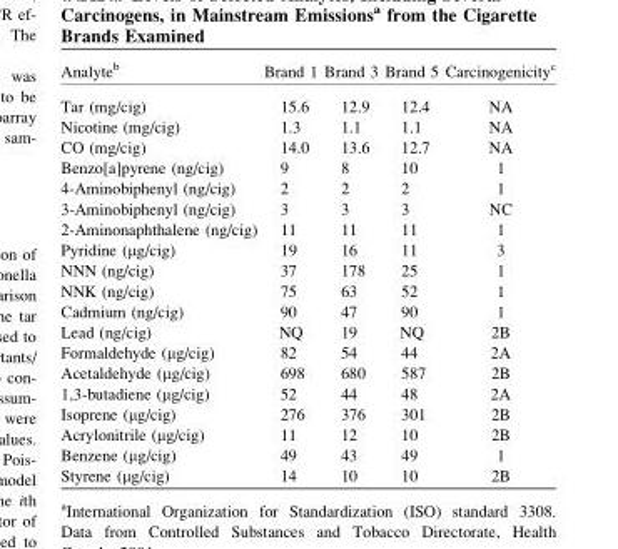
<table><thead><tr><td>Analyte<sup>b</sup></td><td>Brand 1</td><td>Brand 3</td><td>Brand 5</td><td>Carcinogenicity<sup>c</sup></td></tr></thead><tbody><tr><td>Tar (mg/cig)</td><td>15.6</td><td>12.9</td><td>12.4</td><td>NA</td></tr><tr><td>Nicotine (mg/cig)</td><td>1.3</td><td>1.1</td><td>1.1</td><td>NA</td></tr><tr><td>CO (mg/cig)</td><td>14.0</td><td>13.6</td><td>12.7</td><td>NA</td></tr><tr><td>Benzo[a]pyrene (ng/cig)</td><td>9</td><td>8</td><td>10</td><td>1</td></tr><tr><td>4-Aminobiphenyl (ng/cig)</td><td>2</td><td>2</td><td>2</td><td>1</td></tr><tr><td>3-Aminobiphenyl (ng/cig)</td><td>3</td><td>3</td><td>3</td><td>NC</td></tr><tr><td>2-Aminonaphthalene (ng/cig)</td><td>11</td><td>11</td><td>11</td><td>1</td></tr><tr><td>Pyridine (μg/cig)</td><td>19</td><td>16</td><td>11</td><td>3</td></tr><tr><td>NNN (ng/cig)</td><td>37</td><td>178</td><td>25</td><td>1</td></tr><tr><td>NNK (ng/cig)</td><td>75</td><td>63</td><td>52</td><td>1</td></tr><tr><td>Cadmium (ng/cig)</td><td>90</td><td>47</td><td>90</td><td>1</td></tr><tr><td>Lead (ng/cig)</td><td>NQ</td><td>19</td><td>NQ</td><td>2B</td></tr><tr><td>Formaldehyde (μg/cig)</td><td>82</td><td>54</td><td>44</td><td>2A</td></tr><tr><td>Acetaldehyde (μg/cig)</td><td>698</td><td>680</td><td>587</td><td>2B</td></tr><tr><td>1,3-butadiene (μg/cig)</td><td>52</td><td>44</td><td>48</td><td>2A</td></tr><tr><td>Isoprene (μg/cig)</td><td>276</td><td>376</td><td>301</td><td>2B</td></tr><tr><td>Acrylonitrile (μg/cig)</td><td>11</td><td>12</td><td>10</td><td>2B</td></tr><tr><td>Benzene (μg/cig)</td><td>49</td><td>43</td><td>49</td><td>1</td></tr><tr><td>Styrene (μg/cig)</td><td>14</td><td>10</td><td>10</td><td>2B</td></tr></tbody></table>